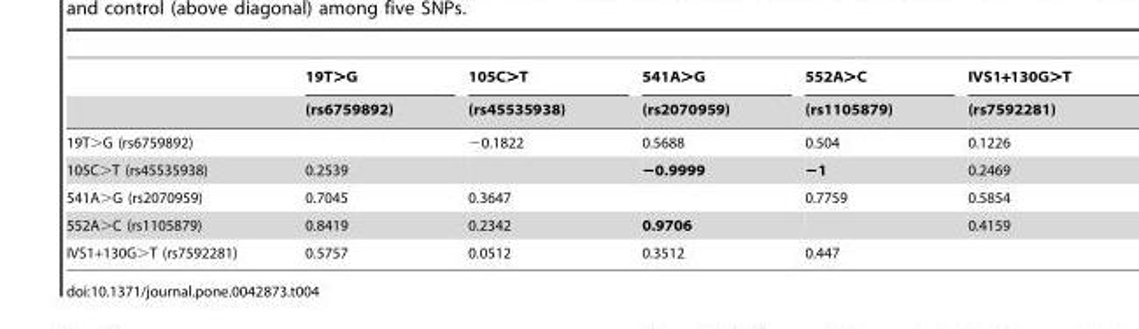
<table><thead><tr><td rowspan="2"></td><td rowspan="2">19T&gt;G (rs6759892)</td><td rowspan="2">105C&gt;T (rs45535938)</td><td rowspan="2">541A&gt;G (rs2070959)</td><td rowspan="2">552A&gt;C (rs1105879)</td><td rowspan="2">IVS1+130G&gt;T (rs7592281)</td></tr><tr></tr></thead><tbody><tr><td>19T&gt;G (rs6759892)</td><td></td><td>−0.1822</td><td>0.5688</td><td>0.504</td><td>0.1226</td></tr><tr><td>105C&gt;T (rs45535938)</td><td>0.2539</td><td></td><td>−0.9999</td><td>−1</td><td>0.2469</td></tr><tr><td>541A&gt;G (rs2070959)</td><td>0.7045</td><td>0.3647</td><td></td><td>0.7759</td><td>0.5854</td></tr><tr><td>552A&gt;C (rs1105879)</td><td>0.8419</td><td>0.2342</td><td>0.9706</td><td></td><td>0.4159</td></tr><tr><td>IVS1+130G&gt;T (rs7592281)</td><td>0.5757</td><td>0.0512</td><td>0.3512</td><td>0.447</td><td></td></tr></tbody></table>